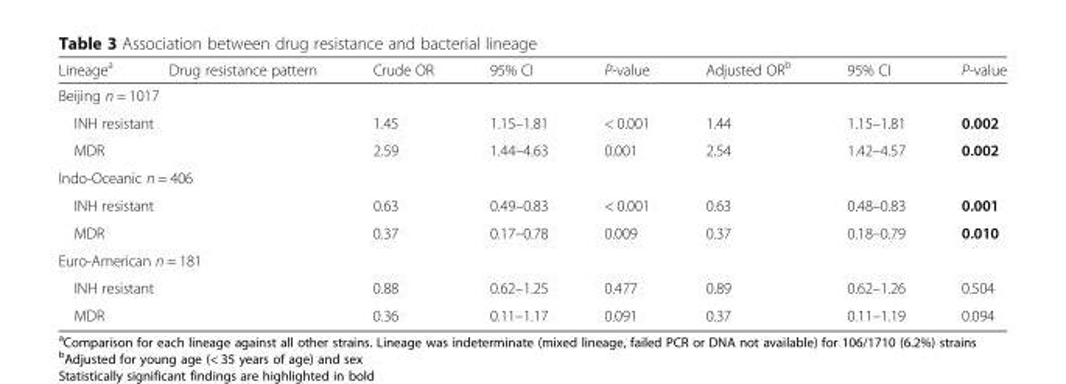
<table><thead><tr><td>Lineage<sup>a</sup></td><td>Drug resistance pattern</td><td>Crude OR</td><td>95% CI</td><td>P-value</td><td>Adjusted OR<sup>b</sup></td><td>95% CI</td><td>P-value</td></tr></thead><tbody><tr><td colspan="8">Beijing n = 1017</td></tr><tr><td colspan="2">INH resistant</td><td>1.45</td><td>1.15–1.81</td><td>&lt; 0.001</td><td>1.44</td><td>1.15–1.81</td><td>0.002</td></tr><tr><td colspan="2">MDR</td><td>2.59</td><td>1.44–4.63</td><td>0.001</td><td>2.54</td><td>1.42–4.57</td><td>0.002</td></tr><tr><td colspan="8">Indo-Oceanic n = 406</td></tr><tr><td colspan="2">INH resistant</td><td>0.63</td><td>0.49–0.83</td><td>&lt; 0.001</td><td>0.63</td><td>0.48–0.83</td><td>0.001</td></tr><tr><td colspan="2">MDR</td><td>0.37</td><td>0.17–0.78</td><td>0.009</td><td>0.37</td><td>0.18–0.79</td><td>0.010</td></tr><tr><td colspan="8">Euro-American n = 181</td></tr><tr><td colspan="2">INH resistant</td><td>0.88</td><td>0.62–1.25</td><td>0.477</td><td>0.89</td><td>0.62–1.26</td><td>0.504</td></tr><tr><td colspan="2">MDR</td><td>0.36</td><td>0.11–1.17</td><td>0.091</td><td>0.37</td><td>0.11–1.19</td><td>0.094</td></tr></tbody></table>